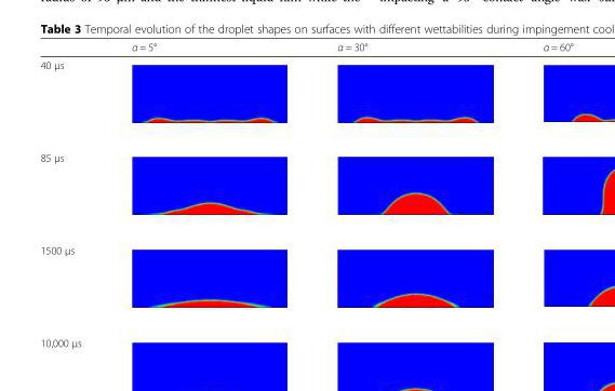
<table><thead><tr><td></td><td>α = 5°</td><td>α = 30°</td><td>α = 60°</td></tr></thead><tbody><tr><td colspan="4">40 μs</td></tr><tr><td colspan="4">85 μs</td></tr><tr><td colspan="4">1500 μs</td></tr><tr><td>10,000 μs</td><td></td><td></td><td></td></tr></tbody></table>